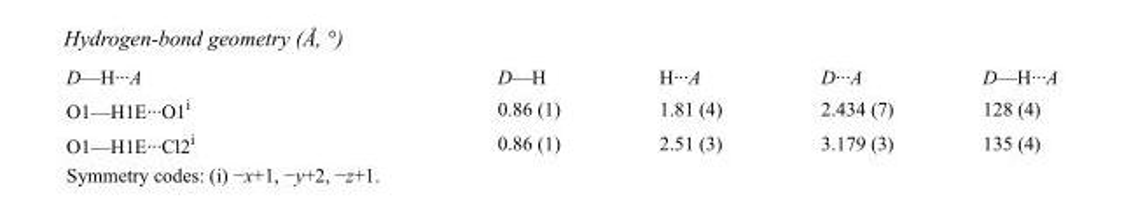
<table><tbody><tr><td>D—H···A</td><td>D—H</td><td>H···A</td><td>D···A</td><td>D—H···A</td></tr><tr><td>O1—H1E···O1<sup>i</sup></td><td>0.86 (1)</td><td>1.81 (4)</td><td>2.434 (7)</td><td>128 (4)</td></tr><tr><td>O1—H1E···Cl2<sup>i</sup></td><td>0.86 (1)</td><td>2.51 (3)</td><td>3.179 (3)</td><td>135 (4)</td></tr></tbody></table>